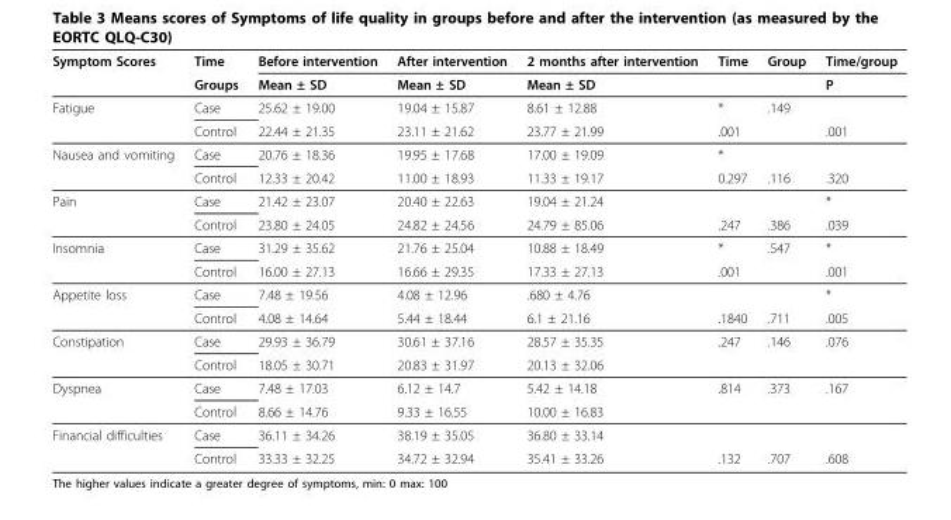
<table><thead><tr><td rowspan="2">Symptom Scores</td><td rowspan="2">Time Groups</td><td rowspan="2">Before intervention Mean ± SD</td><td rowspan="2">After intervention Mean ± SD</td><td rowspan="2">2 months after intervention Mean ± SD</td><td rowspan="2">Time</td><td rowspan="2">Group</td><td rowspan="2">Time/group P</td></tr><tr></tr></thead><tbody><tr><td rowspan="2">Fatigue</td><td>Case</td><td>25.62 ± 19.00</td><td>19.04 ± 15.87</td><td>8.61 ± 12.88</td><td>*</td><td>.149</td><td></td></tr><tr><td>Control</td><td>22.44 ± 21.35</td><td>23.11 ± 21.62</td><td>23.77 ± 21.99</td><td>.001</td><td></td><td>.001</td></tr><tr><td rowspan="2">Nausea and vomiting</td><td>Case</td><td>20.76 ± 18.36</td><td>19.95 ± 17.68</td><td>17.00 ± 19.09</td><td>*</td><td></td><td></td></tr><tr><td>Control</td><td>12.33 ± 20.42</td><td>11.00 ± 18.93</td><td>11.33 ± 19.17</td><td>0.297</td><td>.116</td><td>.320</td></tr><tr><td rowspan="2">Pain</td><td>Case</td><td>21.42 ± 23.07</td><td>20.40 ± 22.63</td><td>19.04 ± 21.24</td><td></td><td></td><td>*</td></tr><tr><td>Control</td><td>23.80 ± 24.05</td><td>24.82 ± 24.56</td><td>24.79 ± 85.06</td><td>.247</td><td>.386</td><td>.039</td></tr><tr><td rowspan="2">Insomnia</td><td>Case</td><td>31.29 ± 35.62</td><td>21.76 ± 25.04</td><td>10.88 ± 18.49</td><td>*</td><td>.547</td><td>*</td></tr><tr><td>Control</td><td>16.00 ± 27.13</td><td>16.66 ± 29.35</td><td>17.33 ± 27.13</td><td>.001</td><td></td><td>.001</td></tr><tr><td rowspan="2">Appetite loss</td><td>Case</td><td>7.48 ± 19.56</td><td>4.08 ± 12.96</td><td>.680 ± 4.76</td><td></td><td></td><td>*</td></tr><tr><td>Control</td><td>4.08 ± 14.64</td><td>5.44 ± 18.44</td><td>6.1 ± 21.16</td><td>.1840</td><td>.711</td><td>.005</td></tr><tr><td rowspan="2">Constipation</td><td>Case</td><td>29.93 ± 36.79</td><td>30.61 ± 37.16</td><td>28.57 ± 35.35</td><td>.247</td><td>.146</td><td>.076</td></tr><tr><td>Control</td><td>18.05 ± 30.71</td><td>20.83 ± 31.97</td><td>20.13 ± 32.06</td><td></td><td></td><td></td></tr><tr><td rowspan="2">Dyspnea</td><td>Case</td><td>7.48 ± 17.03</td><td>6.12 ± 14.7</td><td>5.42 ± 14.18</td><td>.814</td><td>.373</td><td>.167</td></tr><tr><td>Control</td><td>8.66 ± 14.76</td><td>9.33 ± 16.55</td><td>10.00 ± 16.83</td><td></td><td></td><td></td></tr><tr><td rowspan="2">Financial difficulties</td><td>Case</td><td>36.11 ± 34.26</td><td>38.19 ± 35.05</td><td>36.80 ± 33.14</td><td></td><td></td><td></td></tr><tr><td>Control</td><td>33.33 ± 32.25</td><td>34.72 ± 32.94</td><td>35.41 ± 33.26</td><td>.132</td><td>.707</td><td>.608</td></tr></tbody></table>